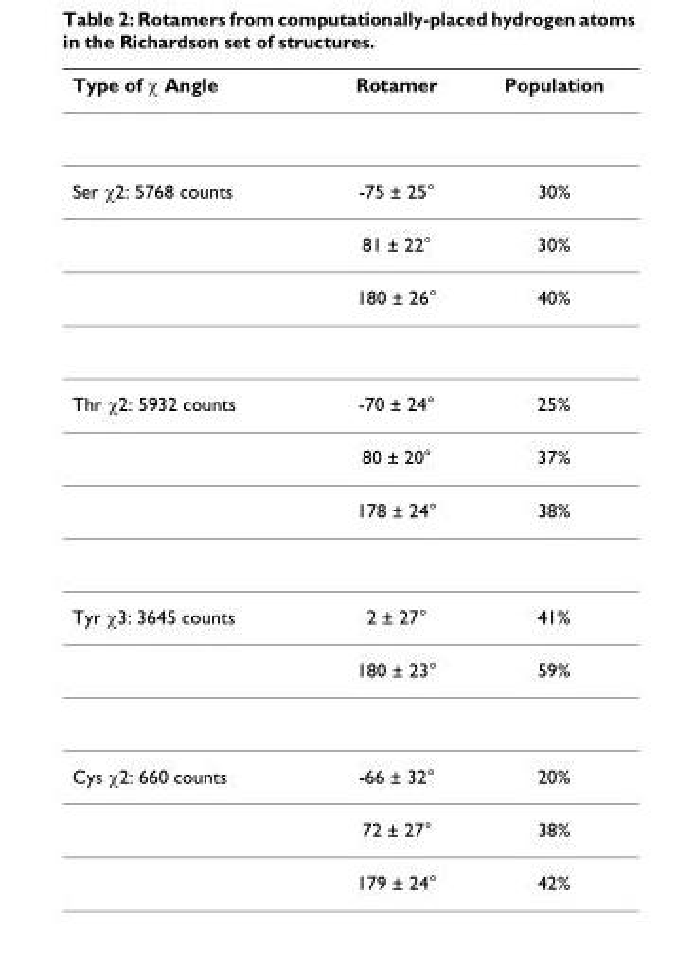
<table><thead><tr><td>Type of χ Angle</td><td>Rotamer</td><td>Population</td></tr></thead><tbody><tr><td rowspan="3">Ser χ2: 5768 counts</td><td>-75 ± 25°</td><td>30%</td></tr><tr><td>81 ± 22°</td><td>30%</td></tr><tr><td>180 ± 26°</td><td>40%</td></tr><tr><td rowspan="3">Thr χ2: 5932 counts</td><td>-70 ± 24°</td><td>25%</td></tr><tr><td>80 ± 20°</td><td>37%</td></tr><tr><td>178 ± 24°</td><td>38%</td></tr><tr><td rowspan="2">Tyr χ3: 3645 counts</td><td>2 ± 27°</td><td>41%</td></tr><tr><td>180 ± 23°</td><td>59%</td></tr><tr><td rowspan="3">Cys χ2: 660 counts</td><td>-66 ± 32°</td><td>20%</td></tr><tr><td>72 ± 27°</td><td>38%</td></tr><tr><td>179 ± 24°</td><td>42%</td></tr></tbody></table>